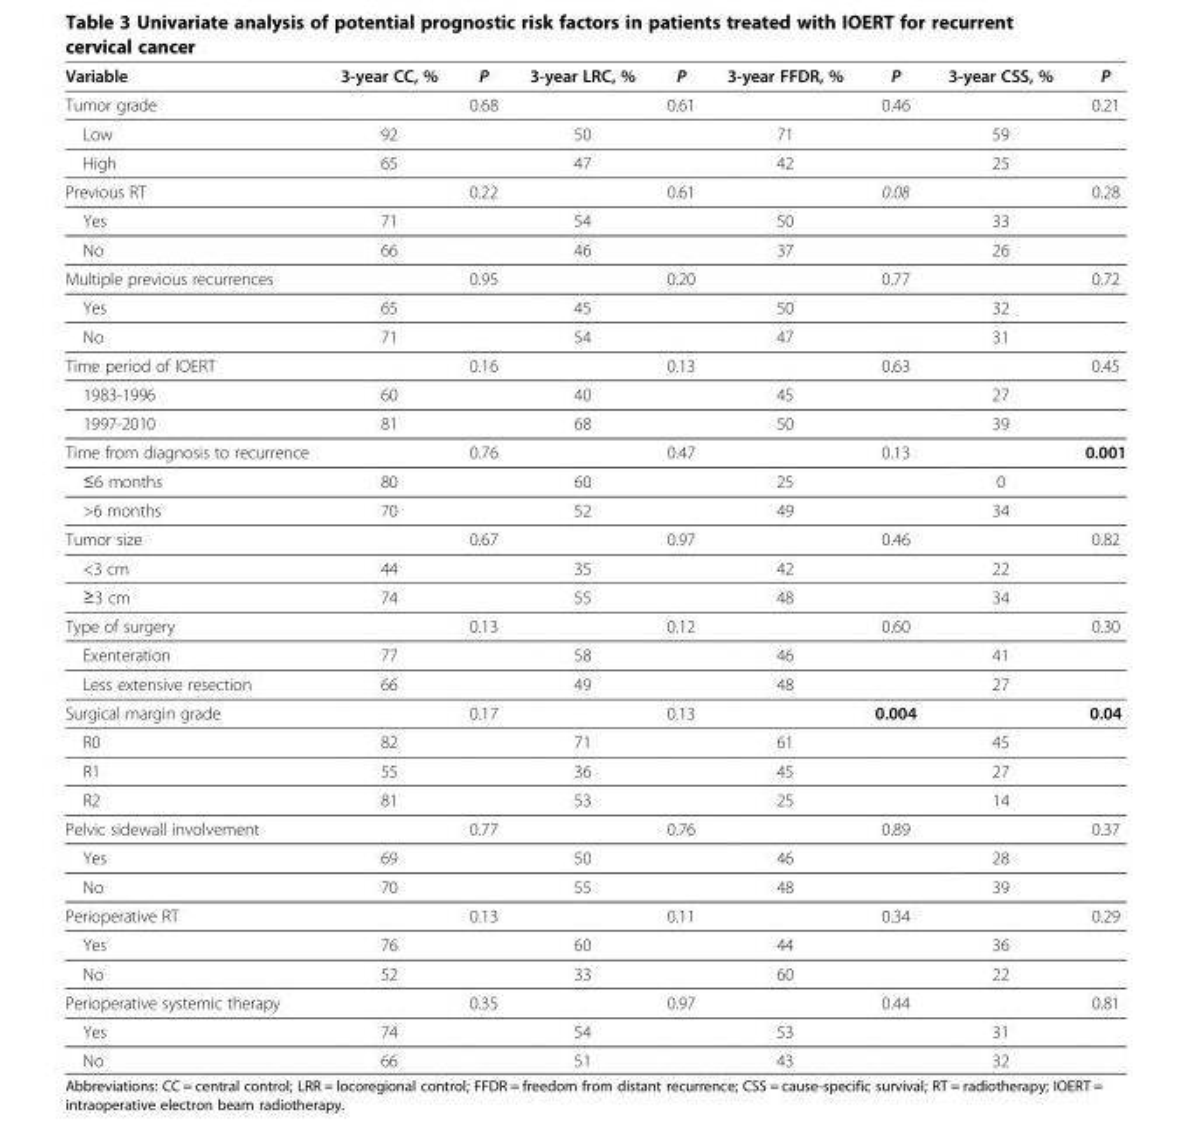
<table><thead><tr><td>Variable</td><td>3-year CC, %</td><td>P</td><td>3-year LRC, %</td><td>P</td><td>3-year FFDR, %</td><td>P</td><td>3-year CSS, %</td><td>P</td></tr></thead><tbody><tr><td>Tumor grade</td><td></td><td>0.68</td><td></td><td>0.61</td><td></td><td>0.46</td><td></td><td>0.21</td></tr><tr><td>Low</td><td>92</td><td></td><td>50</td><td></td><td>71</td><td></td><td>59</td><td></td></tr><tr><td>High</td><td>65</td><td></td><td>47</td><td></td><td>42</td><td></td><td>25</td><td></td></tr><tr><td>Previous RT</td><td></td><td>0.22</td><td></td><td>0.61</td><td></td><td>0.08</td><td></td><td>0.28</td></tr><tr><td>Yes</td><td>71</td><td></td><td>54</td><td></td><td>50</td><td></td><td>33</td><td></td></tr><tr><td>No</td><td>66</td><td></td><td>46</td><td></td><td>37</td><td></td><td>26</td><td></td></tr><tr><td>Multiple previous recurrences</td><td></td><td>0.95</td><td></td><td>0.20</td><td></td><td>0.77</td><td></td><td>0.72</td></tr><tr><td>Yes</td><td>65</td><td></td><td>45</td><td></td><td>50</td><td></td><td>32</td><td></td></tr><tr><td>No</td><td>71</td><td></td><td>54</td><td></td><td>47</td><td></td><td>31</td><td></td></tr><tr><td>Time period of IOERT</td><td></td><td>0.16</td><td></td><td>0.13</td><td></td><td>0.63</td><td></td><td>0.45</td></tr><tr><td>1983-1996</td><td>60</td><td></td><td>40</td><td></td><td>45</td><td></td><td>27</td><td></td></tr><tr><td>1997-2010</td><td>81</td><td></td><td>68</td><td></td><td>50</td><td></td><td>39</td><td></td></tr><tr><td>Time from diagnosis to recurrence</td><td></td><td>0.76</td><td></td><td>0.47</td><td></td><td>0.13</td><td></td><td>0.001</td></tr><tr><td>≤6 months</td><td>80</td><td></td><td>60</td><td></td><td>25</td><td></td><td>0</td><td></td></tr><tr><td>&gt;6 months</td><td>70</td><td></td><td>52</td><td></td><td>49</td><td></td><td>34</td><td></td></tr><tr><td>Tumor size</td><td></td><td>0.67</td><td></td><td>0.97</td><td></td><td>0.46</td><td></td><td>0.82</td></tr><tr><td>&lt;3 cm</td><td>44</td><td></td><td>35</td><td></td><td>42</td><td></td><td>22</td><td></td></tr><tr><td>≥3 cm</td><td>74</td><td></td><td>55</td><td></td><td>48</td><td></td><td>34</td><td></td></tr><tr><td>Type of surgery</td><td></td><td>0.13</td><td></td><td>0.12</td><td></td><td>0.60</td><td></td><td>0.30</td></tr><tr><td>Exenteration</td><td>77</td><td></td><td>58</td><td></td><td>46</td><td></td><td>41</td><td></td></tr><tr><td>Less extensive resection</td><td>66</td><td></td><td>49</td><td></td><td>48</td><td></td><td>27</td><td></td></tr><tr><td>Surgical margin grade</td><td></td><td>0.17</td><td></td><td>0.13</td><td></td><td>0.004</td><td></td><td>0.04</td></tr><tr><td>R0</td><td>82</td><td></td><td>71</td><td></td><td>61</td><td></td><td>45</td><td></td></tr><tr><td>R1</td><td>55</td><td></td><td>36</td><td></td><td>45</td><td></td><td>27</td><td></td></tr><tr><td>R2</td><td>81</td><td></td><td>53</td><td></td><td>25</td><td></td><td>14</td><td></td></tr><tr><td>Pelvic sidewall involvement</td><td></td><td>0.77</td><td></td><td>0.76</td><td></td><td>0.89</td><td></td><td>0.37</td></tr><tr><td>Yes</td><td>69</td><td></td><td>50</td><td></td><td>46</td><td></td><td>28</td><td></td></tr><tr><td>No</td><td>70</td><td></td><td>55</td><td></td><td>48</td><td></td><td>39</td><td></td></tr><tr><td>Perioperative RT</td><td></td><td>0.13</td><td></td><td>0.11</td><td></td><td>0.34</td><td></td><td>0.29</td></tr><tr><td>Yes</td><td>76</td><td></td><td>60</td><td></td><td>44</td><td></td><td>36</td><td></td></tr><tr><td>No</td><td>52</td><td></td><td>33</td><td></td><td>60</td><td></td><td>22</td><td></td></tr><tr><td>Perioperative systemic therapy</td><td></td><td>0.35</td><td></td><td>0.97</td><td></td><td>0.44</td><td></td><td>0.81</td></tr><tr><td>Yes</td><td>74</td><td></td><td>54</td><td></td><td>53</td><td></td><td>31</td><td></td></tr><tr><td>No</td><td>66</td><td></td><td>51</td><td></td><td>43</td><td></td><td>32</td><td></td></tr></tbody></table>